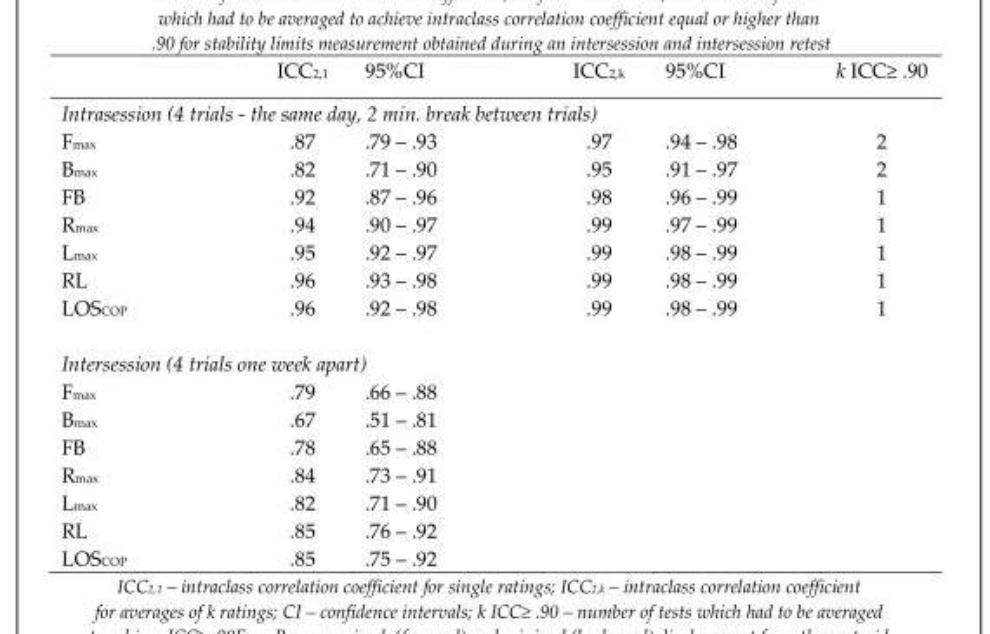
<table><thead><tr><td></td><td>ICC<sub>2,1</sub></td><td>95%CI</td><td>ICC<sub>2,k</sub></td><td>95%CI</td><td>k ICC≥ .90</td></tr></thead><tbody><tr><td colspan="6">Intrasession (4 trials - the same day, 2 min. break between trials)</td></tr><tr><td>F<sub>max</sub></td><td>.87</td><td>.79 – .93</td><td>.97</td><td>.94 – .98</td><td>2</td></tr><tr><td>B<sub>max</sub></td><td>.82</td><td>.71 – .90</td><td>.95</td><td>.91 – .97</td><td>2</td></tr><tr><td>FB</td><td>.92</td><td>.87 – .96</td><td>.98</td><td>.96 – .99</td><td>1</td></tr><tr><td>R<sub>max</sub></td><td>.94</td><td>.90 – .97</td><td>.99</td><td>.97 – .99</td><td>1</td></tr><tr><td>L<sub>max</sub></td><td>.95</td><td>.92 – .97</td><td>.99</td><td>.98 – .99</td><td>1</td></tr><tr><td>RL</td><td>.96</td><td>.93 – .98</td><td>.99</td><td>.98 – .99</td><td>1</td></tr><tr><td>LOS<sub>COP</sub></td><td>.96</td><td>.92 – .98</td><td>.99</td><td>.98 – .99</td><td>1</td></tr><tr><td colspan="6">Intersession (4 trials one week apart)</td></tr><tr><td>F<sub>max</sub></td><td>.79</td><td>.66 – .88</td><td></td><td></td><td></td></tr><tr><td>B<sub>max</sub></td><td>.67</td><td>.51 – .81</td><td></td><td></td><td></td></tr><tr><td>FB</td><td>.78</td><td>.65 – .88</td><td></td><td></td><td></td></tr><tr><td>R<sub>max</sub></td><td>.84</td><td>.73 – .91</td><td></td><td></td><td></td></tr><tr><td>L<sub>max</sub></td><td>.82</td><td>.71 – .90</td><td></td><td></td><td></td></tr><tr><td>RL</td><td>.85</td><td>.76 – .92</td><td></td><td></td><td></td></tr><tr><td>LOS<sub>COP</sub></td><td>.85</td><td>.75 – .92</td><td></td><td></td><td></td></tr></tbody></table>